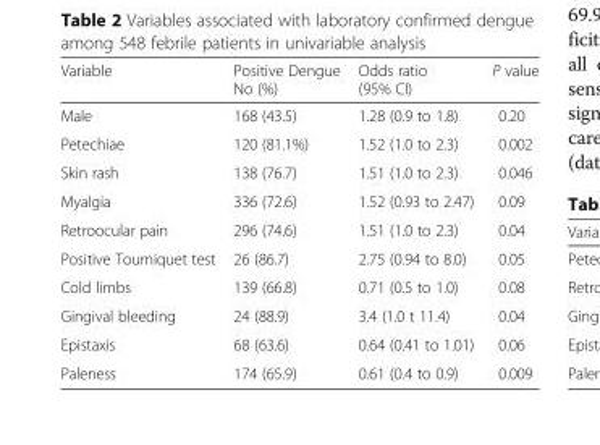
<table><thead><tr><td>Variable</td><td>Positive Dengue No (%)</td><td>Odds ratio (95% CI)</td><td>P value</td></tr></thead><tbody><tr><td>Male</td><td>168 (43.5)</td><td>1.28 (0.9 to 1.8)</td><td>0.20</td></tr><tr><td>Petechiae</td><td>120 (81.1%)</td><td>1.52 (1.0 to 2.3)</td><td>0.002</td></tr><tr><td>Skin rash</td><td>138 (76.7)</td><td>1.51 (1.0 to 2.3)</td><td>0.046</td></tr><tr><td>Myalgia</td><td>336 (72.6)</td><td>1.52 (0.93 to 2.47)</td><td>0.09</td></tr><tr><td>Retroocular pain</td><td>296 (74.6)</td><td>1.51 (1.0 to 2.3)</td><td>0.04</td></tr><tr><td>Positive Tourniquet test</td><td>26 (86.7)</td><td>2.75 (0.94 to 8.0)</td><td>0.05</td></tr><tr><td>Cold limbs</td><td>139 (66.8)</td><td>0.71 (0.5 to 1.0)</td><td>0.08</td></tr><tr><td>Gingival bleeding</td><td>24 (88.9)</td><td>3.4 (1.0 t 11.4)</td><td>0.04</td></tr><tr><td>Epistaxis</td><td>68 (63.6)</td><td>0.64 (0.41 to 1.01)</td><td>0.06</td></tr><tr><td>Paleness</td><td>174 (65.9)</td><td>0.61 (0.4 to 0.9)</td><td>0.009</td></tr></tbody></table>